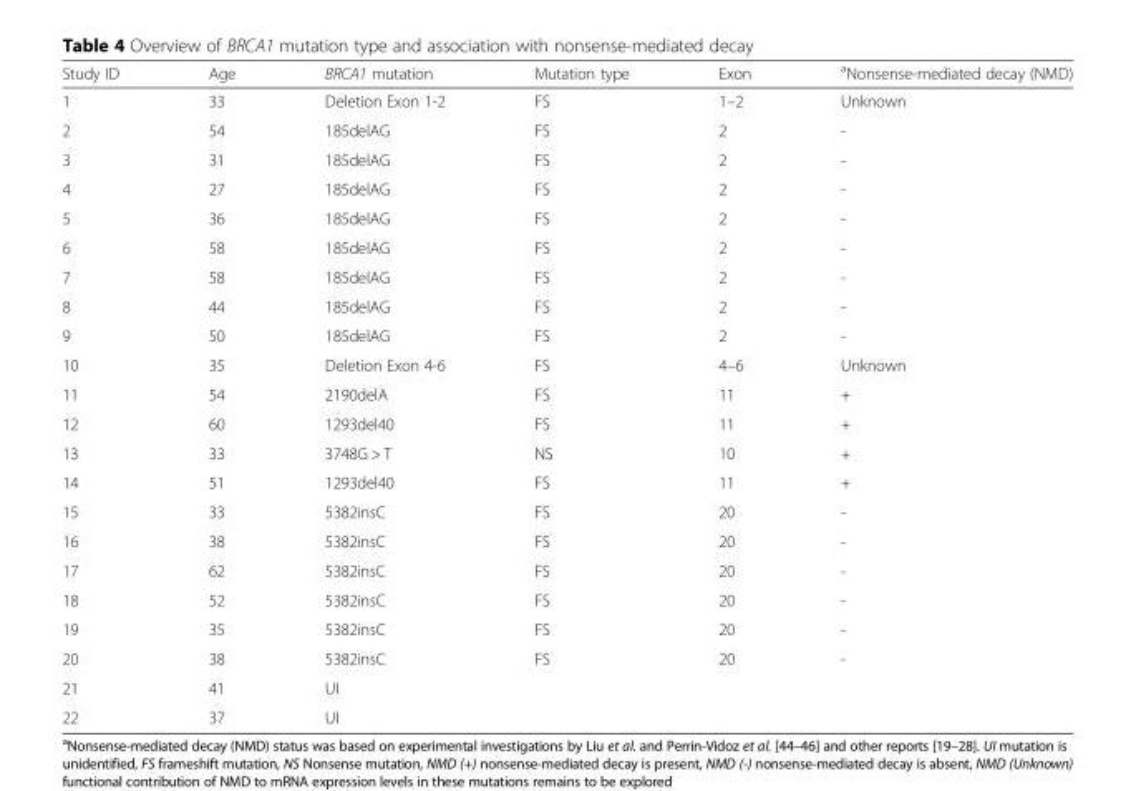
<table><thead><tr><td>Study ID</td><td>Age</td><td>BRCA1 mutation</td><td>Mutation type</td><td>Exon</td><td><sup>a</sup>Nonsense-mediated decay (NMD)</td></tr></thead><tbody><tr><td>1</td><td>33</td><td>Deletion Exon 1-2</td><td>FS</td><td>1–2</td><td>Unknown</td></tr><tr><td>2</td><td>54</td><td>185delAG</td><td>FS</td><td>2</td><td>-</td></tr><tr><td>3</td><td>31</td><td>185delAG</td><td>FS</td><td>2</td><td>-</td></tr><tr><td>4</td><td>27</td><td>185delAG</td><td>FS</td><td>2</td><td>-</td></tr><tr><td>5</td><td>36</td><td>185delAG</td><td>FS</td><td>2</td><td>-</td></tr><tr><td>6</td><td>58</td><td>185delAG</td><td>FS</td><td>2</td><td>-</td></tr><tr><td>7</td><td>58</td><td>185delAG</td><td>FS</td><td>2</td><td>-</td></tr><tr><td>8</td><td>44</td><td>185delAG</td><td>FS</td><td>2</td><td>-</td></tr><tr><td>9</td><td>50</td><td>185delAG</td><td>FS</td><td>2</td><td>-</td></tr><tr><td>10</td><td>35</td><td>Deletion Exon 4-6</td><td>FS</td><td>4–6</td><td>Unknown</td></tr><tr><td>11</td><td>54</td><td>2190delA</td><td>FS</td><td>11</td><td>+</td></tr><tr><td>12</td><td>60</td><td>1293del40</td><td>FS</td><td>11</td><td>+</td></tr><tr><td>13</td><td>33</td><td>3748G &gt; T</td><td>NS</td><td>10</td><td>+</td></tr><tr><td>14</td><td>51</td><td>1293del40</td><td>FS</td><td>11</td><td>+</td></tr><tr><td>15</td><td>33</td><td>5382insC</td><td>FS</td><td>20</td><td>-</td></tr><tr><td>16</td><td>38</td><td>5382insC</td><td>FS</td><td>20</td><td>-</td></tr><tr><td>17</td><td>62</td><td>5382insC</td><td>FS</td><td>20</td><td>-</td></tr><tr><td>18</td><td>52</td><td>5382insC</td><td>FS</td><td>20</td><td>-</td></tr><tr><td>19</td><td>35</td><td>5382insC</td><td>FS</td><td>20</td><td>-</td></tr><tr><td>20</td><td>38</td><td>5382insC</td><td>FS</td><td>20</td><td>-</td></tr><tr><td>21</td><td>41</td><td>UI</td><td></td><td></td><td></td></tr><tr><td>22</td><td>37</td><td>UI</td><td></td><td></td><td></td></tr></tbody></table>